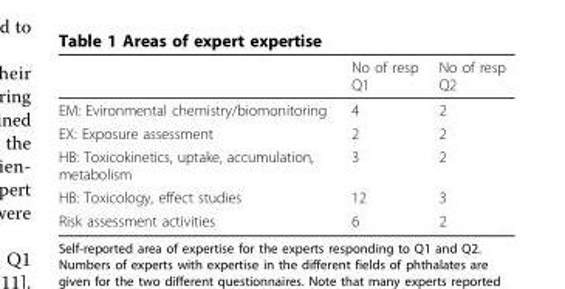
<table><thead><tr><td></td><td>No of resp Q1</td><td>No of resp Q2</td></tr></thead><tbody><tr><td>EM: Evironmental chemistry/biomonitoring</td><td>4</td><td>2</td></tr><tr><td>EX: Exposure assessment</td><td>2</td><td>2</td></tr><tr><td>HB: Toxicokinetics, uptake, accumulation, metabolism</td><td>3</td><td>2</td></tr><tr><td>HB: Toxicology, effect studies</td><td>12</td><td>3</td></tr><tr><td>Risk assessment activities</td><td>6</td><td>2</td></tr></tbody></table>